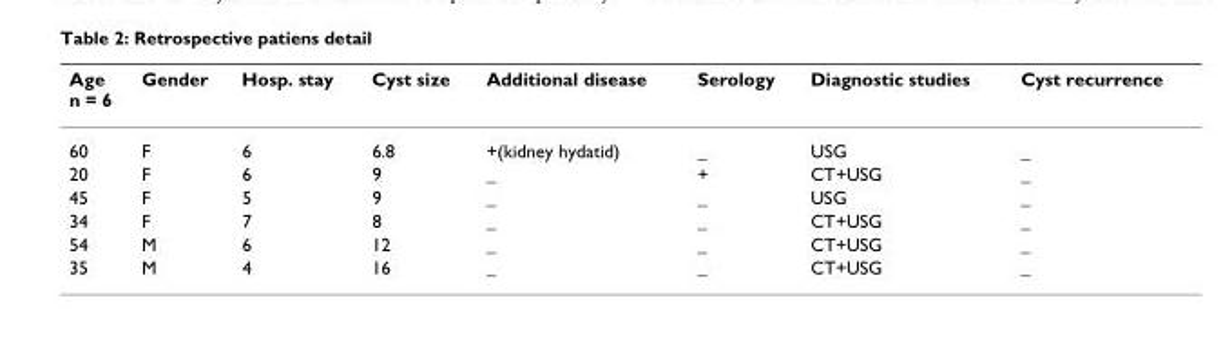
<table><thead><tr><td>Age n = 6</td><td>Gender</td><td>Hosp. stay</td><td>Cyst size</td><td>Additional disease</td><td>Serology</td><td>Diagnostic studies</td><td>Cyst recurrence</td></tr></thead><tbody><tr><td>60</td><td>F</td><td>6</td><td>6.8</td><td>+(kidney hydatid)</td><td>_</td><td>USG</td><td>_</td></tr><tr><td>20</td><td>F</td><td>6</td><td>9</td><td>_</td><td>+</td><td>CT+USG</td><td>_</td></tr><tr><td>45</td><td>F</td><td>5</td><td>9</td><td>_</td><td>_</td><td>USG</td><td>_</td></tr><tr><td>34</td><td>F</td><td>7</td><td>8</td><td>_</td><td>_</td><td>CT+USG</td><td>_</td></tr><tr><td>54</td><td>M</td><td>6</td><td>12</td><td>_</td><td>_</td><td>CT+USG</td><td>_</td></tr><tr><td>35</td><td>M</td><td>4</td><td>16</td><td>_</td><td>_</td><td>CT+USG</td><td>_</td></tr></tbody></table>